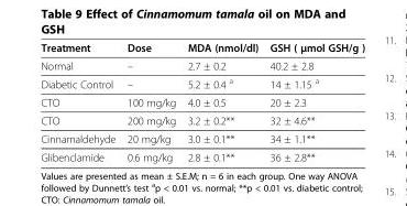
<table><thead><tr><td>Treatment</td><td>Dose</td><td>MDA (nmol/dl)</td><td>GSH ( μmol GSH/g )</td></tr></thead><tbody><tr><td>Normal</td><td>–</td><td>2.7 ± 0.2</td><td>40.2 ± 2.8</td></tr><tr><td>Diabetic Control</td><td>–</td><td>5.2 ± 0.4 <sup>a</sup></td><td>14 ± 1.15 <sup>a</sup></td></tr><tr><td>CTO</td><td>100 mg/kg</td><td>4.0 ± 0.5</td><td>20 ± 2.3</td></tr><tr><td>CTO</td><td>200 mg/kg</td><td>3.2 ± 0.2**</td><td>32 ± 4.6**</td></tr><tr><td>Cinnamaldehyde</td><td>20 mg/kg</td><td>3.0 ± 0.1**</td><td>34 ± 1.1**</td></tr><tr><td>Glibenclamide</td><td>0.6 mg/kg</td><td>2.8 ± 0.1**</td><td>36 ± 2.8**</td></tr></tbody></table>